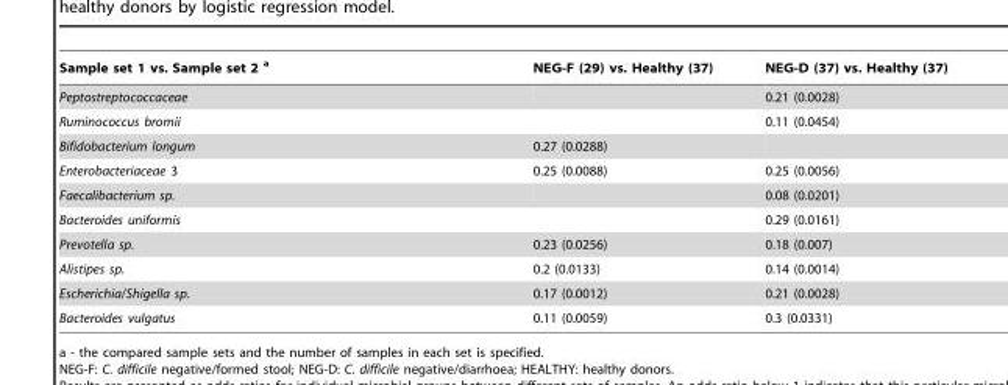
<table><thead><tr><td>Sample set 1 vs. Sample set 2 <sup>a</sup></td><td>NEG-F (29) vs. Healthy (37)</td><td>NEG-D (37) vs. Healthy (37)</td></tr></thead><tbody><tr><td>Peptostreptococcaceae</td><td></td><td>0.21 (0.0028)</td></tr><tr><td>Ruminococcus bromii</td><td></td><td>0.11 (0.0454)</td></tr><tr><td>Bifidobacterium longum</td><td>0.27 (0.0288)</td><td></td></tr><tr><td>Enterobacteriaceae 3</td><td>0.25 (0.0088)</td><td>0.25 (0.0056)</td></tr><tr><td>Faecalibacterium sp.</td><td></td><td>0.08 (0.0201)</td></tr><tr><td>Bacteroides uniformis</td><td></td><td>0.29 (0.0161)</td></tr><tr><td>Prevotella sp.</td><td>0.23 (0.0256)</td><td>0.18 (0.007)</td></tr><tr><td>Alistipes sp.</td><td>0.2 (0.0133)</td><td>0.14 (0.0014)</td></tr><tr><td>Escherichia/Shigella sp.</td><td>0.17 (0.0012)</td><td>0.21 (0.0028)</td></tr><tr><td>Bacteroides vulgatus</td><td>0.11 (0.0059)</td><td>0.3 (0.0331)</td></tr></tbody></table>